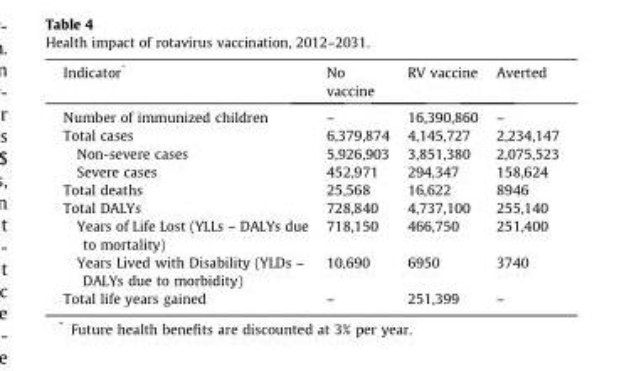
<table><thead><tr><td>Indicator*</td><td>No vaccine</td><td>RV vaccine</td><td>Averted</td></tr></thead><tbody><tr><td>Number of immunized children</td><td>–</td><td>16,390,860</td><td>–</td></tr><tr><td>Total cases</td><td>6,379,874</td><td>4,145,727</td><td>2,234,147</td></tr><tr><td>Non-severe cases</td><td>5,926,903</td><td>3,851,380</td><td>2,075,523</td></tr><tr><td>Severe cases</td><td>452,971</td><td>294,347</td><td>158,624</td></tr><tr><td>Total deaths</td><td>25,568</td><td>16,622</td><td>8946</td></tr><tr><td>Total DALYs</td><td>728,840</td><td>4,737,100</td><td>255,140</td></tr><tr><td>Years of Life Lost (YLLs – DALYs due to mortality)</td><td>718,150</td><td>466,750</td><td>251,400</td></tr><tr><td>Years Lived with Disability (YLDs – DALYs due to morbidity)</td><td>10,690</td><td>6950</td><td>3740</td></tr><tr><td>Total life years gained</td><td>–</td><td>251,399</td><td>–</td></tr></tbody></table>